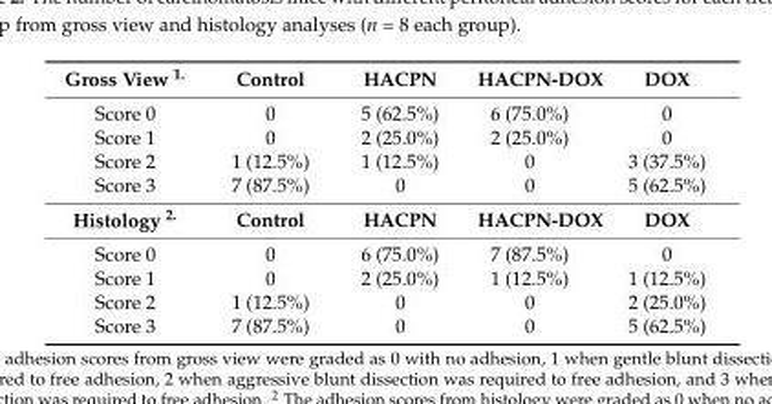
<table><thead><tr><td>Gross View <sup>1.</sup></td><td>Control</td><td>HACPN</td><td>HACPN-DOX</td><td>DOX</td></tr></thead><tbody><tr><td>Score 0</td><td>0</td><td>5 (62.5%)</td><td>6 (75.0%)</td><td>0</td></tr><tr><td>Score 1</td><td>0</td><td>2 (25.0%)</td><td>2 (25.0%)</td><td>0</td></tr><tr><td>Score 2</td><td>1 (12.5%)</td><td>1 (12.5%)</td><td>0</td><td>3 (37.5%)</td></tr><tr><td>Score 3</td><td>7 (87.5%)</td><td>0</td><td>0</td><td>5 (62.5%)</td></tr><tr><td>Histology <sup>2.</sup></td><td>Control</td><td>HACPN</td><td>HACPN-DOX</td><td>DOX</td></tr><tr><td>Score 0</td><td>0</td><td>6 (75.0%)</td><td>7 (87.5%)</td><td>0</td></tr><tr><td>Score 1</td><td>0</td><td>2 (25.0%)</td><td>1 (12.5%)</td><td>1 (12.5%)</td></tr><tr><td>Score 2</td><td>1 (12.5%)</td><td>0</td><td>0</td><td>2 (25.0%)</td></tr><tr><td>Score 3</td><td>7 (87.5%)</td><td>0</td><td>0</td><td>5 (62.5%)</td></tr></tbody></table>